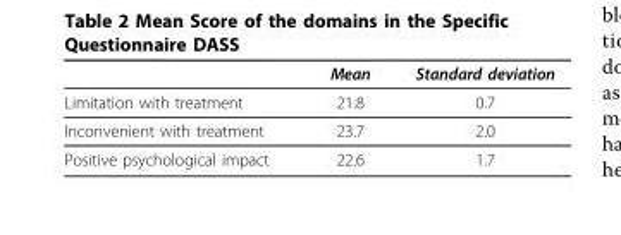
<table><thead><tr><td></td><td>Mean</td><td>Standard deviation</td></tr></thead><tbody><tr><td>Limitation with treatment</td><td>21.8</td><td>0.7</td></tr><tr><td>Inconvenient with treatment</td><td>23.7</td><td>2.0</td></tr><tr><td>Positive psychological impact</td><td>22.6</td><td>1.7</td></tr></tbody></table>